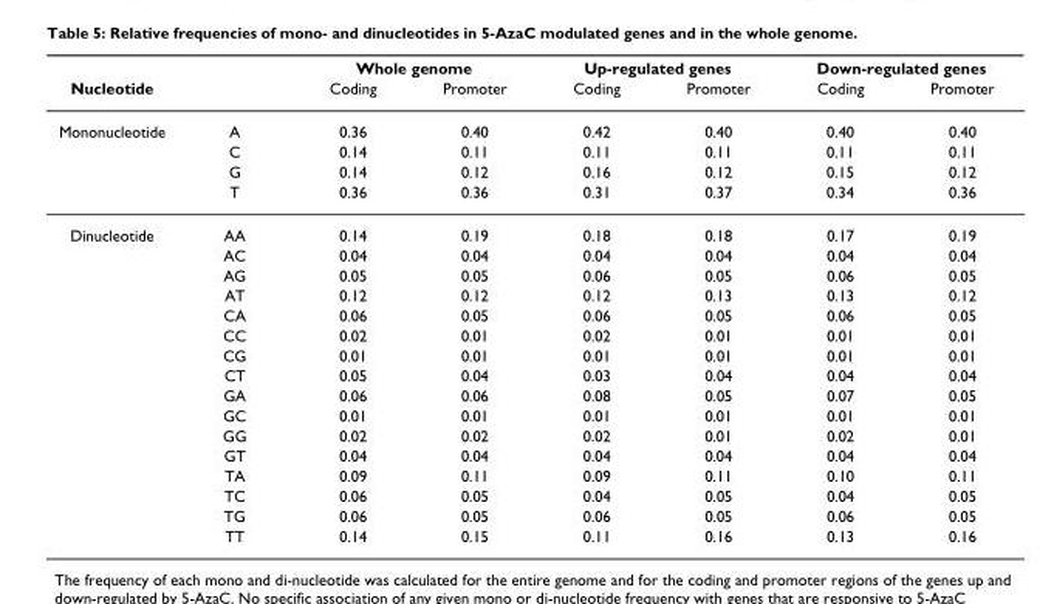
<table><thead><tr><td rowspan="2">Nucleotide</td><td rowspan="2"></td><td colspan="2">Whole genome</td><td colspan="2">Up-regulated genes</td><td colspan="2">Down-regulated genes</td></tr><tr><td>Coding</td><td>Promoter</td><td>Coding</td><td>Promoter</td><td>Coding</td><td>Promoter</td></tr></thead><tbody><tr><td rowspan="4">Mononucleotide</td><td>A</td><td>0.36</td><td>0.40</td><td>0.42</td><td>0.40</td><td>0.40</td><td>0.40</td></tr><tr><td>C</td><td>0.14</td><td>0.11</td><td>0.11</td><td>0.11</td><td>0.11</td><td>0.11</td></tr><tr><td>G</td><td>0.14</td><td>0.12</td><td>0.16</td><td>0.12</td><td>0.15</td><td>0.12</td></tr><tr><td>T</td><td>0.36</td><td>0.36</td><td>0.31</td><td>0.37</td><td>0.34</td><td>0.36</td></tr><tr><td rowspan="16">Dinucleotide</td><td>AA</td><td>0.14</td><td>0.19</td><td>0.18</td><td>0.18</td><td>0.17</td><td>0.19</td></tr><tr><td>AC</td><td>0.04</td><td>0.04</td><td>0.04</td><td>0.04</td><td>0.04</td><td>0.04</td></tr><tr><td>AG</td><td>0.05</td><td>0.05</td><td>0.06</td><td>0.05</td><td>0.06</td><td>0.05</td></tr><tr><td>AT</td><td>0.12</td><td>0.12</td><td>0.12</td><td>0.13</td><td>0.13</td><td>0.12</td></tr><tr><td>CA</td><td>0.06</td><td>0.05</td><td>0.06</td><td>0.05</td><td>0.06</td><td>0.05</td></tr><tr><td>CC</td><td>0.02</td><td>0.01</td><td>0.02</td><td>0.01</td><td>0.01</td><td>0.01</td></tr><tr><td>CG</td><td>0.01</td><td>0.01</td><td>0.01</td><td>0.01</td><td>0.01</td><td>0.01</td></tr><tr><td>CT</td><td>0.05</td><td>0.04</td><td>0.03</td><td>0.04</td><td>0.04</td><td>0.04</td></tr><tr><td>GA</td><td>0.06</td><td>0.06</td><td>0.08</td><td>0.05</td><td>0.07</td><td>0.05</td></tr><tr><td>GC</td><td>0.01</td><td>0.01</td><td>0.01</td><td>0.01</td><td>0.01</td><td>0.01</td></tr><tr><td>GG</td><td>0.02</td><td>0.02</td><td>0.02</td><td>0.01</td><td>0.02</td><td>0.01</td></tr><tr><td>GT</td><td>0.04</td><td>0.04</td><td>0.04</td><td>0.04</td><td>0.04</td><td>0.04</td></tr><tr><td>TA</td><td>0.09</td><td>0.11</td><td>0.09</td><td>0.11</td><td>0.10</td><td>0.11</td></tr><tr><td>TC</td><td>0.06</td><td>0.05</td><td>0.04</td><td>0.05</td><td>0.04</td><td>0.05</td></tr><tr><td>TG</td><td>0.06</td><td>0.05</td><td>0.06</td><td>0.05</td><td>0.06</td><td>0.05</td></tr><tr><td>TT</td><td>0.14</td><td>0.15</td><td>0.11</td><td>0.16</td><td>0.13</td><td>0.16</td></tr></tbody></table>